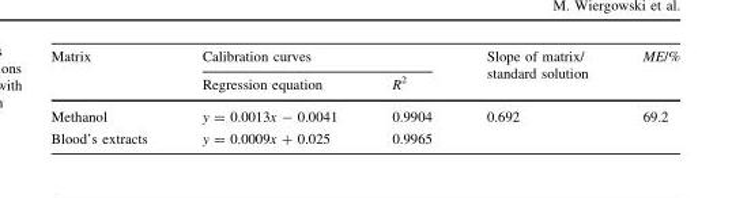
<table><thead><tr><td rowspan="2">Matrix</td><td colspan="2">Calibration curves</td><td rowspan="2">Slope of matrix/ standard solution</td><td rowspan="2">ME/%</td></tr><tr><td>Regression equation</td><td>R<sup>2</sup></td></tr></thead><tbody><tr><td>Methanol</td><td>y = 0.0013x - 0.0041</td><td>0.9904</td><td rowspan="2">0.692</td><td rowspan="2">69.2</td></tr><tr><td>Blood’s extracts</td><td>y = 0.0009x + 0.025</td><td>0.9965</td></tr></tbody></table>